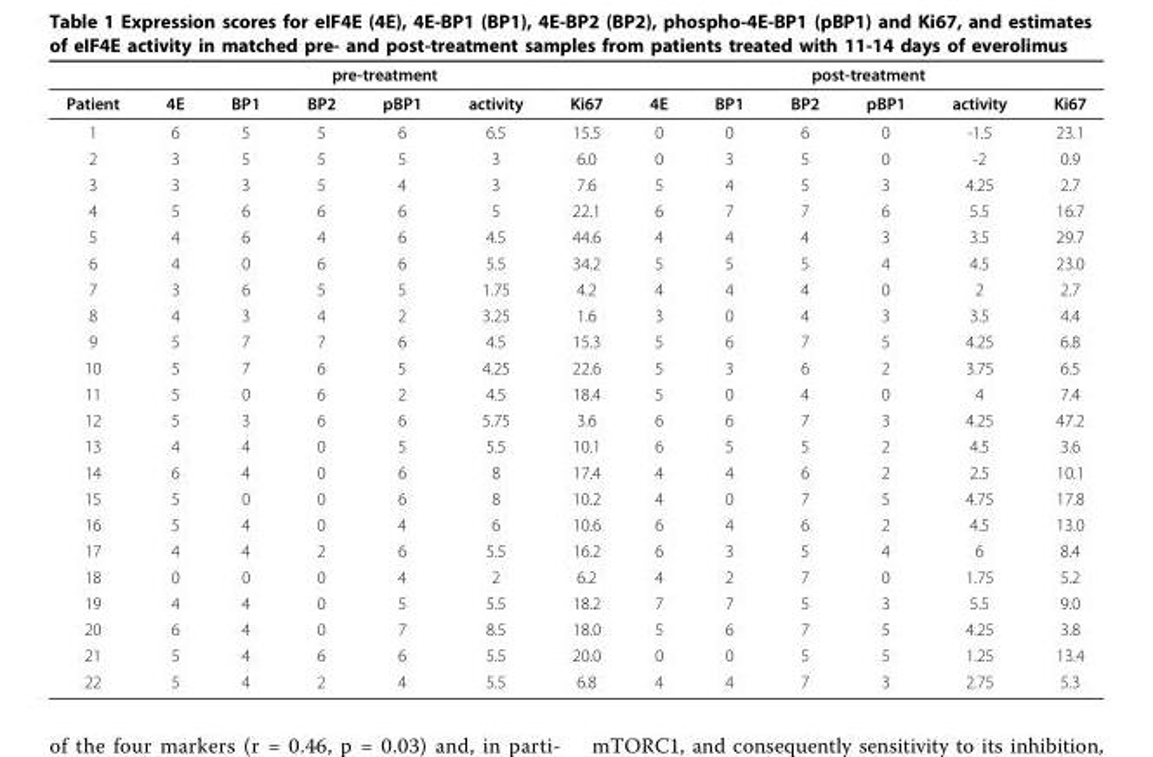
<table><thead><tr><td rowspan="2">Patient</td><td colspan="6">pre-treatment</td><td colspan="6">post-treatment</td></tr><tr><td>4E</td><td>BP1</td><td>BP2</td><td>pBP1</td><td>activity</td><td>Ki67</td><td>4E</td><td>BP1</td><td>BP2</td><td>pBP1</td><td>activity</td><td>Ki67</td></tr></thead><tbody><tr><td>1</td><td>6</td><td>5</td><td>5</td><td>6</td><td>6.5</td><td>15.5</td><td>0</td><td>0</td><td>6</td><td>0</td><td>-1.5</td><td>23.1</td></tr><tr><td>2</td><td>3</td><td>5</td><td>5</td><td>5</td><td>3</td><td>6.0</td><td>0</td><td>3</td><td>5</td><td>0</td><td>-2</td><td>0.9</td></tr><tr><td>3</td><td>3</td><td>3</td><td>5</td><td>4</td><td>3</td><td>7.6</td><td>5</td><td>4</td><td>5</td><td>3</td><td>4.25</td><td>2.7</td></tr><tr><td>4</td><td>5</td><td>6</td><td>6</td><td>6</td><td>5</td><td>22.1</td><td>6</td><td>7</td><td>7</td><td>6</td><td>5.5</td><td>16.7</td></tr><tr><td>5</td><td>4</td><td>6</td><td>4</td><td>6</td><td>4.5</td><td>44.6</td><td>4</td><td>4</td><td>4</td><td>3</td><td>3.5</td><td>29.7</td></tr><tr><td>6</td><td>4</td><td>0</td><td>6</td><td>6</td><td>5.5</td><td>34.2</td><td>5</td><td>5</td><td>5</td><td>4</td><td>4.5</td><td>23.0</td></tr><tr><td>7</td><td>3</td><td>6</td><td>5</td><td>5</td><td>1.75</td><td>4.2</td><td>4</td><td>4</td><td>4</td><td>0</td><td>2</td><td>2.7</td></tr><tr><td>8</td><td>4</td><td>3</td><td>4</td><td>2</td><td>3.25</td><td>1.6</td><td>3</td><td>0</td><td>4</td><td>3</td><td>3.5</td><td>4.4</td></tr><tr><td>9</td><td>5</td><td>7</td><td>7</td><td>6</td><td>4.5</td><td>15.3</td><td>5</td><td>6</td><td>7</td><td>5</td><td>4.25</td><td>6.8</td></tr><tr><td>10</td><td>5</td><td>7</td><td>6</td><td>5</td><td>4.25</td><td>22.6</td><td>5</td><td>3</td><td>6</td><td>2</td><td>3.75</td><td>6.5</td></tr><tr><td>11</td><td>5</td><td>0</td><td>6</td><td>2</td><td>4.5</td><td>18.4</td><td>5</td><td>0</td><td>4</td><td>0</td><td>4</td><td>7.4</td></tr><tr><td>12</td><td>5</td><td>3</td><td>6</td><td>6</td><td>5.75</td><td>3.6</td><td>6</td><td>6</td><td>7</td><td>3</td><td>4.25</td><td>47.2</td></tr><tr><td>13</td><td>4</td><td>4</td><td>0</td><td>5</td><td>5.5</td><td>10.1</td><td>6</td><td>5</td><td>5</td><td>2</td><td>4.5</td><td>3.6</td></tr><tr><td>14</td><td>6</td><td>4</td><td>0</td><td>6</td><td>8</td><td>17.4</td><td>4</td><td>4</td><td>6</td><td>2</td><td>2.5</td><td>10.1</td></tr><tr><td>15</td><td>5</td><td>0</td><td>0</td><td>6</td><td>8</td><td>10.2</td><td>4</td><td>0</td><td>7</td><td>5</td><td>4.75</td><td>17.8</td></tr><tr><td>16</td><td>5</td><td>4</td><td>0</td><td>4</td><td>6</td><td>10.6</td><td>6</td><td>4</td><td>6</td><td>2</td><td>4.5</td><td>13.0</td></tr><tr><td>17</td><td>4</td><td>4</td><td>2</td><td>6</td><td>5.5</td><td>16.2</td><td>6</td><td>3</td><td>5</td><td>4</td><td>6</td><td>8.4</td></tr><tr><td>18</td><td>0</td><td>0</td><td>0</td><td>4</td><td>2</td><td>6.2</td><td>4</td><td>2</td><td>7</td><td>0</td><td>1.75</td><td>5.2</td></tr><tr><td>19</td><td>4</td><td>4</td><td>0</td><td>5</td><td>5.5</td><td>18.2</td><td>7</td><td>7</td><td>5</td><td>3</td><td>5.5</td><td>9.0</td></tr><tr><td>20</td><td>6</td><td>4</td><td>0</td><td>7</td><td>8.5</td><td>18.0</td><td>5</td><td>6</td><td>7</td><td>5</td><td>4.25</td><td>3.8</td></tr><tr><td>21</td><td>5</td><td>4</td><td>6</td><td>6</td><td>5.5</td><td>20.0</td><td>0</td><td>0</td><td>5</td><td>5</td><td>1.25</td><td>13.4</td></tr><tr><td>22</td><td>5</td><td>4</td><td>2</td><td>4</td><td>5.5</td><td>6.8</td><td>4</td><td>4</td><td>7</td><td>3</td><td>2.75</td><td>5.3</td></tr></tbody></table>